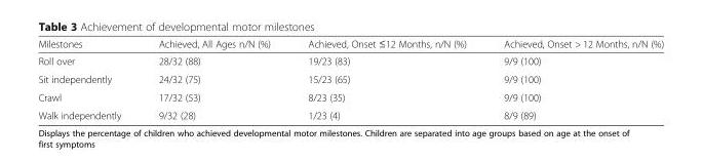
<table><thead><tr><td>Milestones</td><td>Achieved, All Ages n/N (%)</td><td>Achieved, Onset ≤12 Months, n/N (%)</td><td>Achieved, Onset &gt; 12 Months, n/N (%)</td></tr></thead><tbody><tr><td>Roll over</td><td>28/32 (88)</td><td>19/23 (83)</td><td>9/9 (100)</td></tr><tr><td>Sit independently</td><td>24/32 (75)</td><td>15/23 (65)</td><td>9/9 (100)</td></tr><tr><td>Crawl</td><td>17/32 (53)</td><td>8/23 (35)</td><td>9/9 (100)</td></tr><tr><td>Walk independently</td><td>9/32 (28)</td><td>1/23 (4)</td><td>8/9 (89)</td></tr></tbody></table>